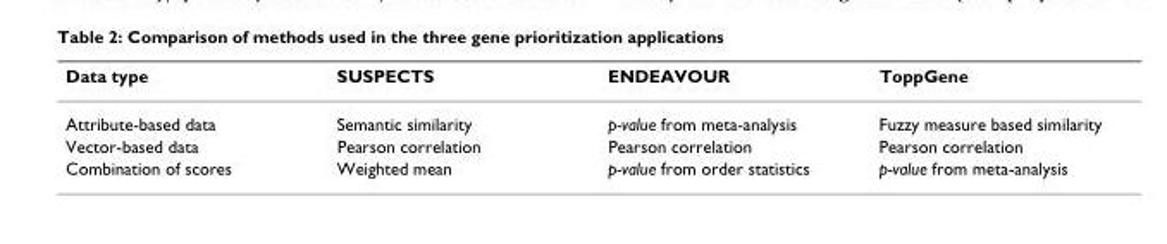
<table><thead><tr><td>Data type</td><td>SUSPECTS</td><td>ENDEAVOUR</td><td>ToppGene</td></tr></thead><tbody><tr><td>Attribute-based data</td><td>Semantic similarity</td><td>p-value from meta-analysis</td><td>Fuzzy measure based similarity</td></tr><tr><td>Vector-based data</td><td>Pearson correlation</td><td>Pearson correlation</td><td>Pearson correlation</td></tr><tr><td>Combination of scores</td><td>Weighted mean</td><td>p-value from order statistics</td><td>p-value from meta-analysis</td></tr></tbody></table>